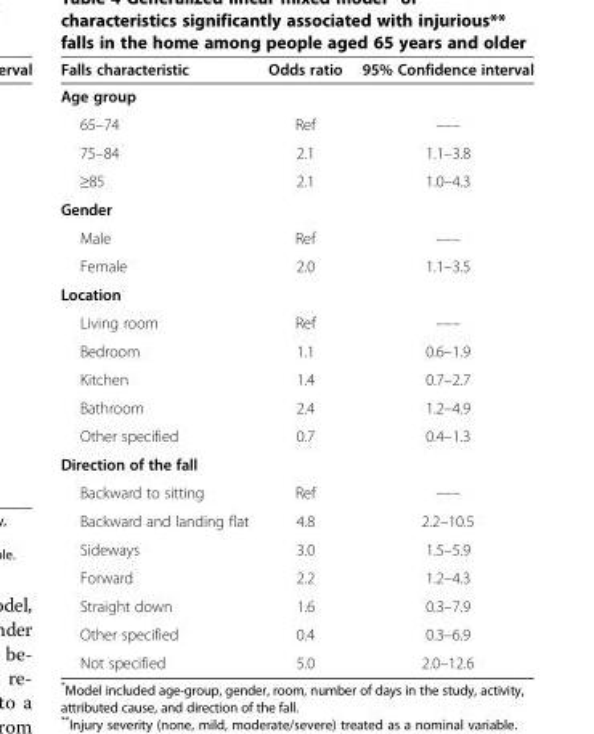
<table><thead><tr><td>Falls characteristic</td><td>Odds ratio</td><td>95% Confidence interval</td></tr></thead><tbody><tr><td colspan="3">Age group</td></tr><tr><td>65–74</td><td>Ref</td><td>–––</td></tr><tr><td>75–84</td><td>2.1</td><td>1.1–3.8</td></tr><tr><td>≥85</td><td>2.1</td><td>1.0–4.3</td></tr><tr><td colspan="3">Gender</td></tr><tr><td>Male</td><td>Ref</td><td>–––</td></tr><tr><td>Female</td><td>2.0</td><td>1.1–3.5</td></tr><tr><td colspan="3">Location</td></tr><tr><td>Living room</td><td>Ref</td><td>–––</td></tr><tr><td>Bedroom</td><td>1.1</td><td>0.6–1.9</td></tr><tr><td>Kitchen</td><td>1.4</td><td>0.7–2.7</td></tr><tr><td>Bathroom</td><td>2.4</td><td>1.2–4.9</td></tr><tr><td>Other specified</td><td>0.7</td><td>0.4–1.3</td></tr><tr><td colspan="3">Direction of the fall</td></tr><tr><td>Backward to sitting</td><td>Ref</td><td>–––</td></tr><tr><td>Backward and landing flat</td><td>4.8</td><td>2.2–10.5</td></tr><tr><td>Sideways</td><td>3.0</td><td>1.5–5.9</td></tr><tr><td>Forward</td><td>2.2</td><td>1.2–4.3</td></tr><tr><td>Straight down</td><td>1.6</td><td>0.3–7.9</td></tr><tr><td>Other specified</td><td>0.4</td><td>0.3–6.9</td></tr><tr><td>Not specified</td><td>5.0</td><td>2.0–12.6</td></tr></tbody></table>